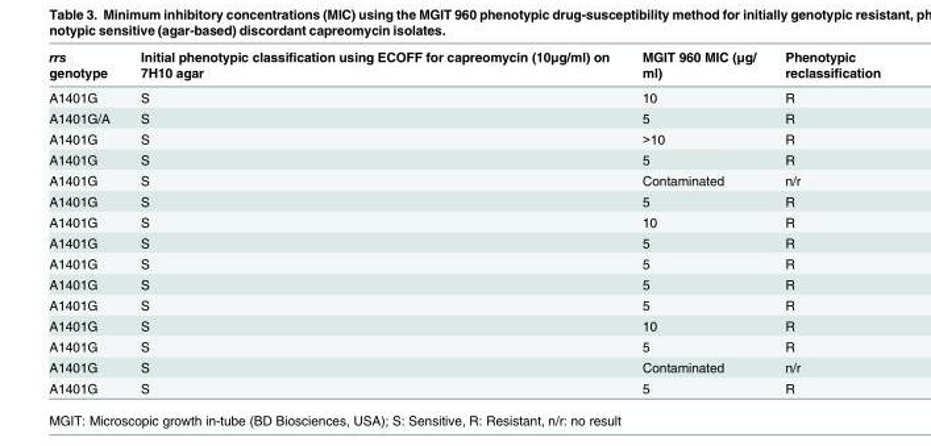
<table><thead><tr><td>rrs genotype</td><td>Initial phenotypic classification using ECOFF for capreomycin (10μg/ml) on 7H10 agar</td><td>MGIT 960 MIC (μg/ ml)</td><td>Phenotypic reclassification</td></tr></thead><tbody><tr><td>A1401G</td><td>S</td><td>10</td><td>R</td></tr><tr><td>A1401G/A</td><td>S</td><td>5</td><td>R</td></tr><tr><td>A1401G</td><td>S</td><td>&gt;10</td><td>R</td></tr><tr><td>A1401G</td><td>S</td><td>5</td><td>R</td></tr><tr><td>A1401G</td><td>S</td><td>Contaminated</td><td>n/r</td></tr><tr><td>A1401G</td><td>S</td><td>5</td><td>R</td></tr><tr><td>A1401G</td><td>S</td><td>10</td><td>R</td></tr><tr><td>A1401G</td><td>S</td><td>5</td><td>R</td></tr><tr><td>A1401G</td><td>S</td><td>5</td><td>R</td></tr><tr><td>A1401G</td><td>S</td><td>5</td><td>R</td></tr><tr><td>A1401G</td><td>S</td><td>5</td><td>R</td></tr><tr><td>A1401G</td><td>S</td><td>10</td><td>R</td></tr><tr><td>A1401G</td><td>S</td><td>5</td><td>R</td></tr><tr><td>A1401G</td><td>S</td><td>Contaminated</td><td>n/r</td></tr><tr><td>A1401G</td><td>S</td><td>5</td><td>R</td></tr></tbody></table>